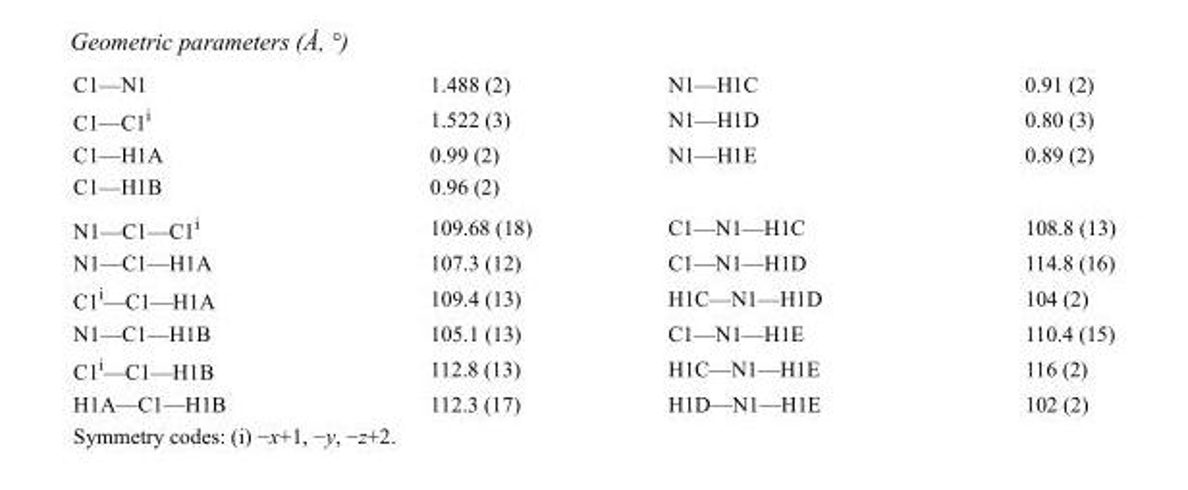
<table><tbody><tr><td>C1—N1</td><td>1.488 (2)</td><td>N1—H1C</td><td>0.91 (2)</td></tr><tr><td>C1—C1<sup>i</sup></td><td>1.522 (3)</td><td>N1—H1D</td><td>0.80 (3)</td></tr><tr><td>C1—H1A</td><td>0.99 (2)</td><td>N1—H1E</td><td>0.89 (2)</td></tr><tr><td>C1—H1B</td><td>0.96 (2)</td><td></td><td></td></tr><tr><td>N1—C1—C1<sup>i</sup></td><td>109.68 (18)</td><td>C1—N1—H1C</td><td>108.8 (13)</td></tr><tr><td>N1—C1—H1A</td><td>107.3 (12)</td><td>C1—N1—H1D</td><td>114.8 (16)</td></tr><tr><td>C1<sup>i</sup>—C1—H1A</td><td>109.4 (13)</td><td>H1C—N1—H1D</td><td>104 (2)</td></tr><tr><td>N1—C1—H1B</td><td>105.1 (13)</td><td>C1—N1—H1E</td><td>110.4 (15)</td></tr><tr><td>C1<sup>i</sup>—C1—H1B</td><td>112.8 (13)</td><td>H1C—N1—H1E</td><td>116 (2)</td></tr><tr><td>H1A—C1—H1B</td><td>112.3 (17)</td><td>H1D—N1—H1E</td><td>102 (2)</td></tr></tbody></table>